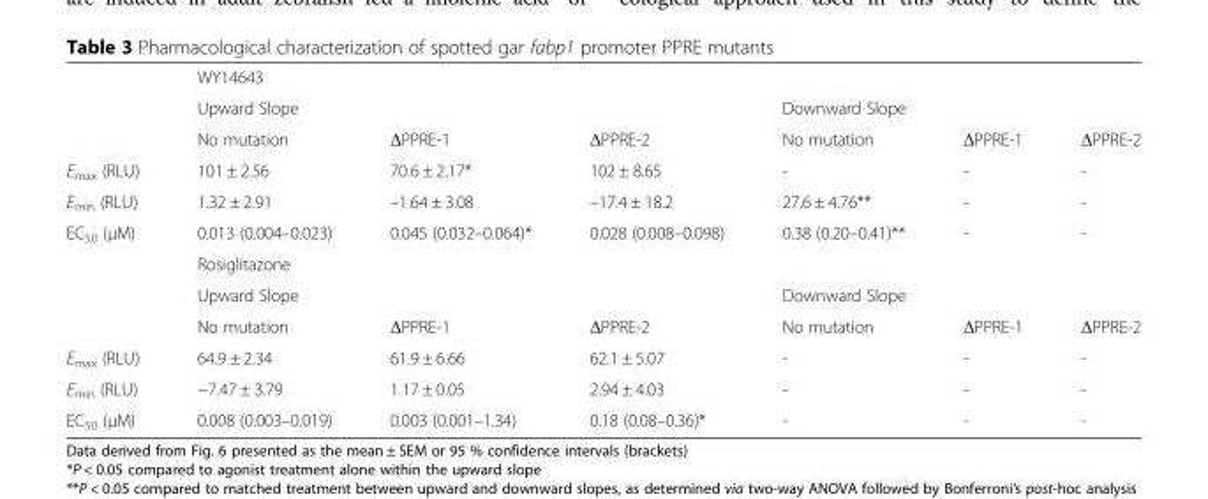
<table><thead><tr><td rowspan="3"></td><td colspan="6">WY14643</td></tr><tr><td colspan="3">Upward Slope</td><td colspan="3">Downward Slope</td></tr><tr><td>No mutation</td><td>ΔPPRE-1</td><td>ΔPPRE-2</td><td>No mutation</td><td>ΔPPRE-1</td><td>ΔPPRE-2</td></tr></thead><tbody><tr><td>E<sub>max</sub> (RLU)</td><td>101 ± 2.56</td><td>70.6 ± 2.17*</td><td>102 ± 8.65</td><td>-</td><td>-</td><td>-</td></tr><tr><td>E<sub>min</sub> (RLU)</td><td>1.32 ± 2.91</td><td>–1.64 ± 3.08</td><td>–17.4 ± 18.2</td><td>27.6 ± 4.76**</td><td>-</td><td>-</td></tr><tr><td rowspan="4">EC<sub>50</sub> (μM)</td><td>0.013 (0.004–0.023)</td><td>0.045 (0.032–0.064)*</td><td>0.028 (0.008–0.098)</td><td>0.38 (0.20–0.41)**</td><td>-</td><td>-</td></tr><tr><td colspan="6">Rosiglitazone</td></tr><tr><td colspan="3">Upward Slope</td><td colspan="3">Downward Slope</td></tr><tr><td>No mutation</td><td>ΔPPRE-1</td><td>ΔPPRE-2</td><td>No mutation</td><td>ΔPPRE-1</td><td>ΔPPRE-2</td></tr><tr><td>E<sub>max</sub> (RLU)</td><td>64.9 ± 2.34</td><td>61.9 ± 6.66</td><td>62.1 ± 5.07</td><td>-</td><td>-</td><td>-</td></tr><tr><td>E<sub>min</sub> (RLU)</td><td>−7.47 ± 3.79</td><td>1.17 ± 0.05</td><td>2.94 ± 4.03</td><td>-</td><td>-</td><td>-</td></tr><tr><td>EC<sub>50</sub> (μM)</td><td>0.008 (0.003–0.019)</td><td>0.003 (0.001–1.34)</td><td>0.18 (0.08–0.36)*</td><td>-</td><td>-</td><td>-</td></tr></tbody></table>